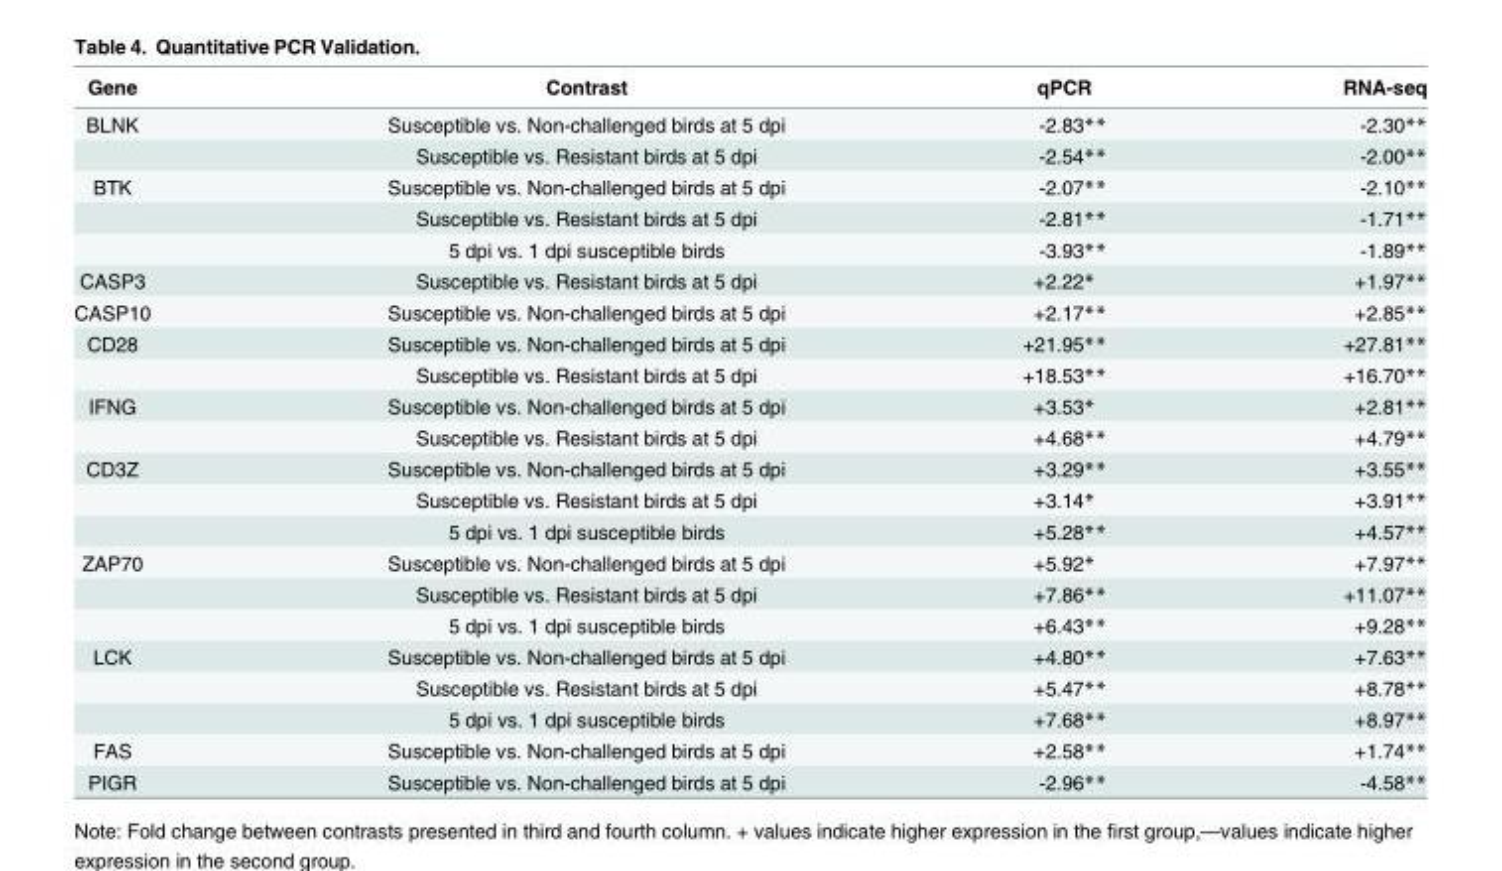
<table><thead><tr><td>Gene</td><td>Contrast</td><td>qPCR</td><td>RNA-seq</td></tr></thead><tbody><tr><td rowspan="2">BLNK</td><td>Susceptible vs. Non-challenged birds at 5 dpi</td><td>-2.83**</td><td>-2.30**</td></tr><tr><td>Susceptible vs. Resistant birds at 5 dpi</td><td>-2.54**</td><td>-2.00**</td></tr><tr><td rowspan="3">BTK</td><td>Susceptible vs. Non-challenged birds at 5 dpi</td><td>-2.07**</td><td>-2.10**</td></tr><tr><td>Susceptible vs. Resistant birds at 5 dpi</td><td>-2.81**</td><td>-1.71**</td></tr><tr><td>5 dpi vs. 1 dpi susceptible birds</td><td>-3.93**</td><td>-1.89**</td></tr><tr><td>CASP3</td><td>Susceptible vs. Resistant birds at 5 dpi</td><td>+2.22*</td><td>+1.97**</td></tr><tr><td>CASP10</td><td>Susceptible vs. Non-challenged birds at 5 dpi</td><td>+2.17**</td><td>+2.85**</td></tr><tr><td rowspan="2">CD28</td><td>Susceptible vs. Non-challenged birds at 5 dpi</td><td>+21.95**</td><td>+27.81**</td></tr><tr><td>Susceptible vs. Resistant birds at 5 dpi</td><td>+18.53**</td><td>+16.70**</td></tr><tr><td rowspan="2">IFNG</td><td>Susceptible vs. Non-challenged birds at 5 dpi</td><td>+3.53*</td><td>+2.81**</td></tr><tr><td>Susceptible vs. Resistant birds at 5 dpi</td><td>+4.68**</td><td>+4.79**</td></tr><tr><td rowspan="3">CD3Z</td><td>Susceptible vs. Non-challenged birds at 5 dpi</td><td>+3.29**</td><td>+3.55**</td></tr><tr><td>Susceptible vs. Resistant birds at 5 dpi</td><td>+3.14*</td><td>+3.91**</td></tr><tr><td>5 dpi vs. 1 dpi susceptible birds</td><td>+5.28**</td><td>+4.57**</td></tr><tr><td rowspan="3">ZAP70</td><td>Susceptible vs. Non-challenged birds at 5 dpi</td><td>+5.92*</td><td>+7.97**</td></tr><tr><td>Susceptible vs. Resistant birds at 5 dpi</td><td>+7.86**</td><td>+11.07**</td></tr><tr><td>5 dpi vs. 1 dpi susceptible birds</td><td>+6.43**</td><td>+9.28**</td></tr><tr><td rowspan="3">LCK</td><td>Susceptible vs. Non-challenged birds at 5 dpi</td><td>+4.80**</td><td>+7.63**</td></tr><tr><td>Susceptible vs. Resistant birds at 5 dpi</td><td>+5.47**</td><td>+8.78**</td></tr><tr><td>5 dpi vs. 1 dpi susceptible birds</td><td>+7.68**</td><td>+8.97**</td></tr><tr><td>FAS</td><td>Susceptible vs. Non-challenged birds at 5 dpi</td><td>+2.58**</td><td>+1.74**</td></tr><tr><td>PIGR</td><td>Susceptible vs. Non-challenged birds at 5 dpi</td><td>-2.96**</td><td>-4.58**</td></tr></tbody></table>